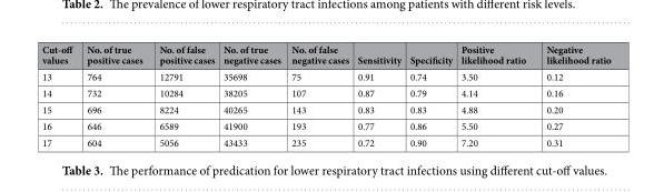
<table><thead><tr><td>Cut-off values</td><td>No. of true positive cases</td><td>No. of false positive cases</td><td>No. of true negative cases</td><td>No. of false negative cases</td><td>Sensitivity</td><td>Specificity</td><td>Positive likelihood ratio</td><td>Negative likelihood ratio</td></tr></thead><tbody><tr><td>13</td><td>764</td><td>12791</td><td>35698</td><td>75</td><td>0.91</td><td>0.74</td><td>3.50</td><td>0.12</td></tr><tr><td>14</td><td>732</td><td>10284</td><td>38205</td><td>107</td><td>0.87</td><td>0.79</td><td>4.14</td><td>0.16</td></tr><tr><td>15</td><td>696</td><td>8224</td><td>40265</td><td>143</td><td>0.83</td><td>0.83</td><td>4.88</td><td>0.20</td></tr><tr><td>16</td><td>646</td><td>6589</td><td>41900</td><td>193</td><td>0.77</td><td>0.86</td><td>5.50</td><td>0.27</td></tr><tr><td>17</td><td>604</td><td>5056</td><td>43433</td><td>235</td><td>0.72</td><td>0.90</td><td>7.20</td><td>0.31</td></tr></tbody></table>